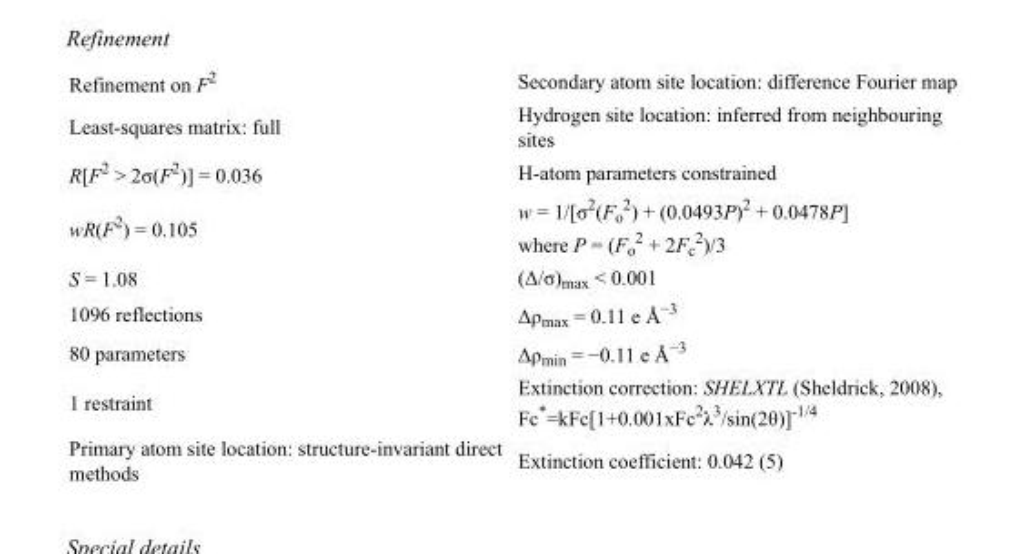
<table><tbody><tr><td>Refinement on F<sup>2</sup></td><td>Secondary atom site location: difference Fourier map</td></tr><tr><td>Least-squares matrix: full</td><td>Hydrogen site location: inferred from neighbouring sites</td></tr><tr><td>R[F<sup>2</sup> &gt; 2σ(F<sup>2</sup>)] = 0.036</td><td>H-atom parameters constrained</td></tr><tr><td>wR(F<sup>2</sup>) = 0.105</td><td>w = 1/[σ<sup>2</sup>(F<sub>o</sub> <sup>2</sup>) + (0.0493P)<sup>2</sup> + 0.0478P] where P = (F<sub>o</sub> <sup>2</sup> + 2F<sub>c</sub> <sup>2</sup>)/3</td></tr><tr><td>S = 1.08</td><td>(Δ/σ)<sub>max</sub> &lt; 0.001</td></tr><tr><td>1096 reflections</td><td>Δρ<sub>max</sub> = 0.11 e Å<sup>−3</sup></td></tr><tr><td>80 parameters</td><td>Δρ<sub>min</sub> = −0.11 e Å<sup>−3</sup></td></tr><tr><td>1 restraint</td><td>Extinction correction: SHELXTL (Sheldrick, 2008), Fc*=kFc[1+0.001xFc<sup>2</sup>λ<sup>3</sup>/sin(2θ)]<sup>-1/4</sup></td></tr><tr><td>Primary atom site location: structure-invariant direct methods</td><td>Extinction coefficient: 0.042 (5)</td></tr></tbody></table>